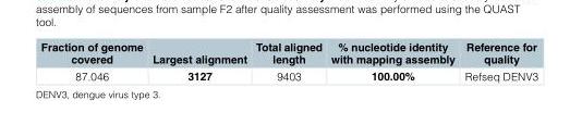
<table><thead><tr><td>Fraction of genome covered</td><td>Largest alignment</td><td>Total aligned length</td><td>% nucleotide identity with mapping assembly</td><td>Reference for quality</td></tr></thead><tbody><tr><td>87.046</td><td>3127</td><td>9403</td><td>100.00%</td><td>Refseq DENV3</td></tr></tbody></table>